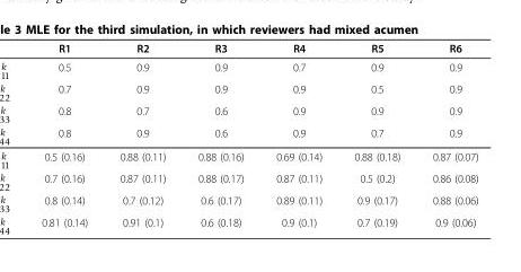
<table><thead><tr><td>R1</td><td>R2</td><td>R3</td><td>R4</td><td>R5</td><td>R6</td></tr></thead><tbody><tr><td>0.5</td><td>0.9</td><td>0.9</td><td>0.7</td><td>0.9</td><td>0.9</td></tr><tr><td>0.7</td><td>0.9</td><td>0.9</td><td>0.9</td><td>0.5</td><td>0.9</td></tr><tr><td>0.8</td><td>0.7</td><td>0.6</td><td>0.9</td><td>0.9</td><td>0.9</td></tr><tr><td>0.8</td><td>0.9</td><td>0.6</td><td>0.9</td><td>0.7</td><td>0.9</td></tr><tr><td>0.5 (0.16)</td><td>0.88 (0.11)</td><td>0.88 (0.16)</td><td>0.69 (0.14)</td><td>0.88 (0.18)</td><td>0.87 (0.07)</td></tr><tr><td>0.7 (0.16)</td><td>0.87 (0.11)</td><td>0.88 (0.17)</td><td>0.87 (0.11)</td><td>0.5 (0.2)</td><td>0.86 (0.08)</td></tr><tr><td>0.8 (0.14)</td><td>0.7 (0.12)</td><td>0.6 (0.17)</td><td>0.89 (0.11)</td><td>0.9 (0.17)</td><td>0.88 (0.06)</td></tr><tr><td>0.81 (0.14)</td><td>0.91 (0.1)</td><td>0.6 (0.18)</td><td>0.9 (0.1)</td><td>0.7 (0.19)</td><td>0.9 (0.06)</td></tr></tbody></table>